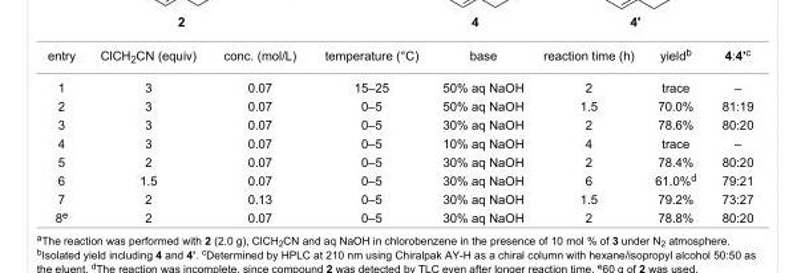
<table><tbody><tr><td>entry</td><td>ClCH<sub>2</sub>CN (equiv)</td><td>conc. (mol/L)</td><td>temperature (°C)</td><td>base</td><td>reaction time (h)</td><td>yield<sup>b</sup></td><td>4:4’<sup>c</sup></td></tr><tr><td>1</td><td>3</td><td>0.07</td><td>15–25</td><td>50% aq NaOH</td><td>2</td><td>trace</td><td>–</td></tr><tr><td>2</td><td>3</td><td>0.07</td><td>0–5</td><td>50% aq NaOH</td><td>1.5</td><td>70.0%</td><td>81:19</td></tr><tr><td>3</td><td>3</td><td>0.07</td><td>0–5</td><td>30% aq NaOH</td><td>2</td><td>78.6%</td><td>80:20</td></tr><tr><td>4</td><td>3</td><td>0.07</td><td>0–5</td><td>10% aq NaOH</td><td>4</td><td>trace</td><td>–</td></tr><tr><td>5</td><td>2</td><td>0.07</td><td>0–5</td><td>30% aq NaOH</td><td>2</td><td>78.4%</td><td>80:20</td></tr><tr><td>6</td><td>1.5</td><td>0.07</td><td>0–5</td><td>30% aq NaOH</td><td>6</td><td>61.0%<sup>d</sup></td><td>79:21</td></tr><tr><td>7</td><td>2</td><td>0.13</td><td>0–5</td><td>30% aq NaOH</td><td>1.5</td><td>79.2%</td><td>73:27</td></tr><tr><td>8<sup>e</sup></td><td>2</td><td>0.07</td><td>0–5</td><td>30% aq NaOH</td><td>2</td><td>78.8%</td><td>80:20</td></tr></tbody></table>